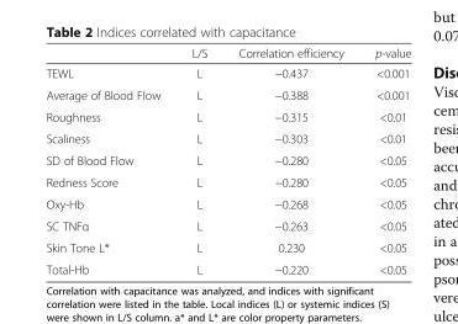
<table><thead><tr><td></td><td>L/S</td><td>Correlation efficiency</td><td>p-value</td></tr></thead><tbody><tr><td>TEWL</td><td>L</td><td>−0.437</td><td>&lt;0.001</td></tr><tr><td>Average of Blood Flow</td><td>L</td><td>−0.388</td><td>&lt;0.001</td></tr><tr><td>Roughness</td><td>L</td><td>−0.315</td><td>&lt;0.01</td></tr><tr><td>Scaliness</td><td>L</td><td>−0.303</td><td>&lt;0.01</td></tr><tr><td>SD of Blood Flow</td><td>L</td><td>−0.280</td><td>&lt;0.05</td></tr><tr><td>Redness Score</td><td>L</td><td>−0.280</td><td>&lt;0.05</td></tr><tr><td>Oxy-Hb</td><td>L</td><td>−0.268</td><td>&lt;0.05</td></tr><tr><td>SC TNFα</td><td>L</td><td>−0.263</td><td>&lt;0.05</td></tr><tr><td>Skin Tone L*</td><td>L</td><td>0.230</td><td>&lt;0.05</td></tr><tr><td>Total-Hb</td><td>L</td><td>−0.220</td><td>&lt;0.05</td></tr></tbody></table>